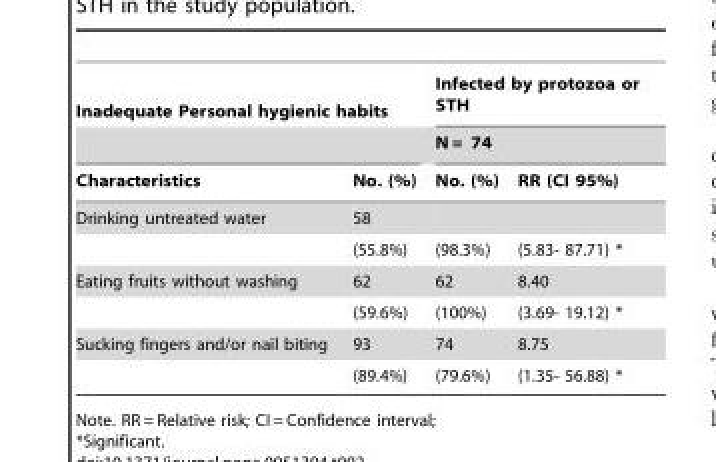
<table><thead><tr><td colspan="2">Inadequate Personal hygienic habits</td><td rowspan="2" colspan="2">Infected by protozoa or STH N = 74</td></tr><tr><td rowspan="2">Characteristics</td><td rowspan="2">No. (%)</td></tr><tr><td>No. (%)</td><td>RR (CI 95%)</td></tr></thead><tbody><tr><td rowspan="2">Drinking untreated water</td><td>58</td><td></td><td></td></tr><tr><td>(55.8%)</td><td>(98.3%)</td><td>(5.83- 87.71) *</td></tr><tr><td rowspan="2">Eating fruits without washing</td><td>62</td><td>62</td><td>8.40</td></tr><tr><td>(59.6%)</td><td>(100%)</td><td>(3.69- 19.12) *</td></tr><tr><td rowspan="2">Sucking fingers and/or nail biting</td><td>93</td><td>74</td><td>8.75</td></tr><tr><td>(89.4%)</td><td>(79.6%)</td><td>(1.35- 56.88) *</td></tr></tbody></table>